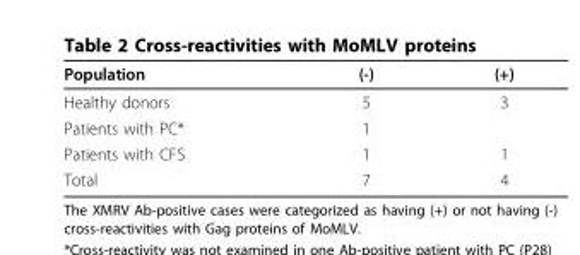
<table><thead><tr><td>Population</td><td>(-)</td><td>(+)</td></tr></thead><tbody><tr><td>Healthy donors</td><td>5</td><td>3</td></tr><tr><td>Patients with PC*</td><td>1</td><td></td></tr><tr><td>Patients with CFS</td><td>1</td><td>1</td></tr><tr><td>Total</td><td>7</td><td>4</td></tr></tbody></table>